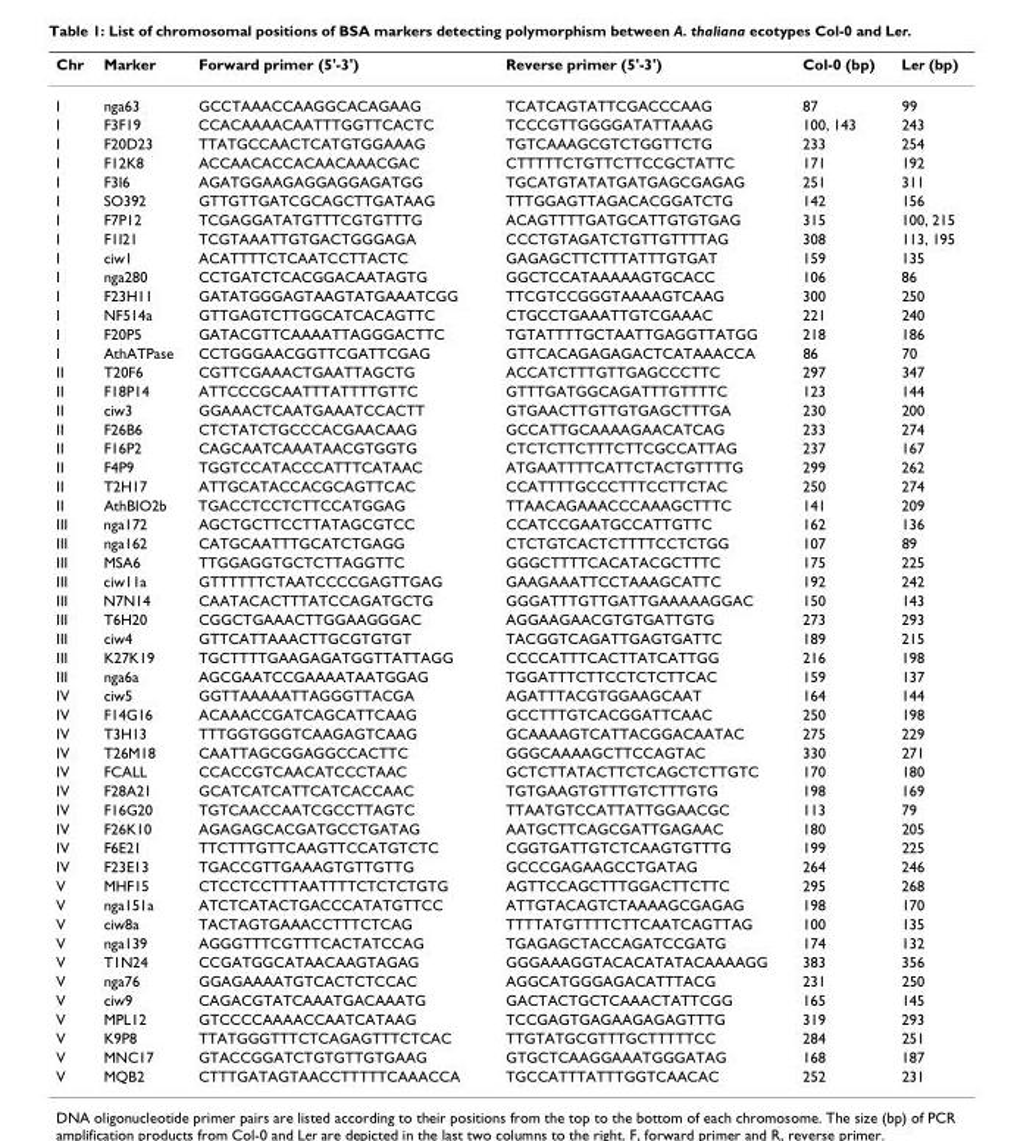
<table><thead><tr><td>Chr</td><td>Marker</td><td>Forward primer (5&#x27;-3&#x27;)</td><td>Reverse primer (5&#x27;-3&#x27;)</td><td>Col-0 (bp)</td><td>Ler (bp)</td></tr></thead><tbody><tr><td>I</td><td>nga63</td><td>GCCTAAACCAAGGCACAGAAG</td><td>TCATCAGTATTCGACCCAAG</td><td>87</td><td>99</td></tr><tr><td>I</td><td>F3F19</td><td>CCACAAAACAATTTGGTTCACTC</td><td>TCCCGTTGGGGATATTAAAG</td><td>100, 143</td><td>243</td></tr><tr><td>I</td><td>F20D23</td><td>TTATGCCAACTCATGTGGAAAG</td><td>TGTCAAAGCGTCTGGTTCTG</td><td>233</td><td>254</td></tr><tr><td>I</td><td>F12K8</td><td>ACCAACACCACAACAAACGAC</td><td>CTTTTTCTGTTCTTCCGCTATTC</td><td>171</td><td>192</td></tr><tr><td>I</td><td>F3I6</td><td>AGATGGAAGAGGAGGAGATGG</td><td>TGCATGTATATGATGAGCGAGAG</td><td>251</td><td>311</td></tr><tr><td>I</td><td>SO392</td><td>GTTGTTGATCGCAGCTTGATAAG</td><td>TTTGGAGTTAGACACGGATCTG</td><td>142</td><td>156</td></tr><tr><td>I</td><td>F7P12</td><td>TCGAGGATATGTTTCGTGTTTG</td><td>ACAGTTTTGATGCATTGTGTGAG</td><td>315</td><td>100, 215</td></tr><tr><td>I</td><td>F1I21</td><td>TCGTAAATTGTGACTGGGAGA</td><td>CCCTGTAGATCTGTTGTTTTAG</td><td>308</td><td>113, 195</td></tr><tr><td>I</td><td>ciw1</td><td>ACATTTTCTCAATCCTTACTC</td><td>GAGAGCTTCTTTATTTGTGAT</td><td>159</td><td>135</td></tr><tr><td>I</td><td>nga280</td><td>CCTGATCTCACGGACAATAGTG</td><td>GGCTCCATAAAAAGTGCACC</td><td>106</td><td>86</td></tr><tr><td>I</td><td>F23H11</td><td>GATATGGGAGTAAGTATGAAATCGG</td><td>TTCGTCCGGGTAAAAGTCAAG</td><td>300</td><td>250</td></tr><tr><td>I</td><td>NF514a</td><td>GTTGAGTCTTGGCATCACAGTTC</td><td>CTGCCTGAAATTGTCGAAAC</td><td>221</td><td>240</td></tr><tr><td>I</td><td>F20P5</td><td>GATACGTTCAAAATTAGGGACTTC</td><td>TGTATTTTGCTAATTGAGGTTATGG</td><td>218</td><td>186</td></tr><tr><td>I</td><td>AthATPase</td><td>CCTGGGAACGGTTCGATTCGAG</td><td>GTTCACAGAGAGACTCATAAACCA</td><td>86</td><td>70</td></tr><tr><td>II</td><td>T20F6</td><td>CGTTCGAAACTGAATTAGCTG</td><td>ACCATCTTTGTTGAGCCCTTC</td><td>297</td><td>347</td></tr><tr><td>II</td><td>F18P14</td><td>ATTCCCGCAATTTATTTTGTTC</td><td>GTTTGATGGCAGATTTGTTTTC</td><td>123</td><td>144</td></tr><tr><td>II</td><td>ciw3</td><td>GGAAACTCAATGAAATCCACTT</td><td>GTGAACTTGTTGTGAGCTTTGA</td><td>230</td><td>200</td></tr><tr><td>II</td><td>F26B6</td><td>CTCTATCTGCCCACGAACAAG</td><td>GCCATTGCAAAAGAACATCAG</td><td>233</td><td>274</td></tr><tr><td>II</td><td>F16P2</td><td>CAGCAATCAAATAACGTGGTG</td><td>CTCTCTTCTTTCTTCGCCATTAG</td><td>237</td><td>167</td></tr><tr><td>II</td><td>F4P9</td><td>TGGTCCATACCCATTTCATAAC</td><td>ATGAATTTTCATTCTACTGTTTTG</td><td>299</td><td>262</td></tr><tr><td>II</td><td>T2H17</td><td>ATTGCATACCACGCAGTTCAC</td><td>CCATTTTGCCCTTTCCTTCTAC</td><td>250</td><td>274</td></tr><tr><td>II</td><td>AthBIO2b</td><td>TGACCTCCTCTTCCATGGAG</td><td>TTAACAGAAACCCAAAGCTTTC</td><td>141</td><td>209</td></tr><tr><td>III</td><td>nga172</td><td>AGCTGCTTCCTTATAGCGTCC</td><td>CCATCCGAATGCCATTGTTC</td><td>162</td><td>136</td></tr><tr><td>III</td><td>nga162</td><td>CATGCAATTTGCATCTGAGG</td><td>CTCTGTCACTCTTTTCCTCTGG</td><td>107</td><td>89</td></tr><tr><td>III</td><td>MSA6</td><td>TTGGAGGTGCTCTTAGGTTC</td><td>GGGCTTTTCACATACGCTTTC</td><td>175</td><td>225</td></tr><tr><td>III</td><td>ciw11a</td><td>GTTTTTTCTAATCCCCGAGTTGAG</td><td>GAAGAAATTCCTAAAGCATTC</td><td>192</td><td>242</td></tr><tr><td>III</td><td>N7N14</td><td>CAATACACTTTATCCAGATGCTG</td><td>GGGATTTGTTGATTGAAAAAGGAC</td><td>150</td><td>143</td></tr><tr><td>III</td><td>T6H20</td><td>CGGCTGAAACTTGGAAGGGAC</td><td>AGGAAGAACGTGTGATTGTG</td><td>273</td><td>293</td></tr><tr><td>III</td><td>ciw4</td><td>GTTCATTAAACTTGCGTGTGT</td><td>TACGGTCAGATTGAGTGATTC</td><td>189</td><td>215</td></tr><tr><td>III</td><td>K27K19</td><td>TGCTTTTGAAGAGATGGTTATTAGG</td><td>CCCCATTTCACTTATCATTGG</td><td>216</td><td>198</td></tr><tr><td>III</td><td>nga6a</td><td>AGCGAATCCGAAAATAATGGAG</td><td>TGGATTTCTTCCTCTCTTCAC</td><td>159</td><td>137</td></tr><tr><td>IV</td><td>ciw5</td><td>GGTTAAAAATTAGGGTTACGA</td><td>AGATTTACGTGGAAGCAAT</td><td>164</td><td>144</td></tr><tr><td>IV</td><td>F14G16</td><td>ACAAACCGATCAGCATTCAAG</td><td>GCCTTTGTCACGGATTCAAC</td><td>250</td><td>198</td></tr><tr><td>IV</td><td>T3H13</td><td>TTTGGTGGGTCAAGAGTCAAG</td><td>GCAAAAGTCATTACGGACAATAC</td><td>275</td><td>229</td></tr><tr><td>IV</td><td>T26M18</td><td>CAATTAGCGGAGGCCACTTC</td><td>GGGCAAAAGCTTCCAGTAC</td><td>330</td><td>271</td></tr><tr><td>IV</td><td>FCALL</td><td>CCACCGTCAACATCCCTAAC</td><td>GCTCTTATACTTCTCAGCTCTTGTC</td><td>170</td><td>180</td></tr><tr><td>IV</td><td>F28A21</td><td>GCATCATCATTCATCACCAAC</td><td>TGTGAAGTGTTTGTCTTTGTG</td><td>198</td><td>169</td></tr><tr><td>IV</td><td>F16G20</td><td>TGTCAACCAATCGCCTTAGTC</td><td>TTAATGTCCATTATTGGAACGC</td><td>113</td><td>79</td></tr><tr><td>IV</td><td>F26K10</td><td>AGAGAGCACGATGCCTGATAG</td><td>AATGCTTCAGCGATTGAGAAC</td><td>180</td><td>205</td></tr><tr><td>IV</td><td>F6E21</td><td>TTCTTTGTTCAAGTTCCATGTCTC</td><td>CGGTGATTGTCTCAAGTGTTTG</td><td>199</td><td>225</td></tr><tr><td>IV</td><td>F23E13</td><td>TGACCGTTGAAAGTGTTGTTG</td><td>GCCCGAGAAGCCTGATAG</td><td>264</td><td>246</td></tr><tr><td>V</td><td>MHF15</td><td>CTCCTCCTTTAATTTTCTCTCTGTG</td><td>AGTTCCAGCTTTGGACTTCTTC</td><td>295</td><td>268</td></tr><tr><td>V</td><td>nga151a</td><td>ATCTCATACTGACCCATATGTTCC</td><td>ATTGTACAGTCTAAAAGCGAGAG</td><td>198</td><td>170</td></tr><tr><td>V</td><td>ciw8a</td><td>TACTAGTGAAACCTTTCTCAG</td><td>TTTTATGTTTTCTTCAATCAGTTAG</td><td>100</td><td>135</td></tr><tr><td>V</td><td>nga139</td><td>AGGGTTTCGTTTCACTATCCAG</td><td>TGAGAGCTACCAGATCCGATG</td><td>174</td><td>132</td></tr><tr><td>V</td><td>T1N24</td><td>CCGATGGCATAACAAGTAGAG</td><td>GGGAAAGGTACACATATACAAAAGG</td><td>383</td><td>356</td></tr><tr><td>V</td><td>nga76</td><td>GGAGAAAATGTCACTCTCCAC</td><td>AGGCATGGGAGACATTTACG</td><td>231</td><td>250</td></tr><tr><td>V</td><td>ciw9</td><td>CAGACGTATCAAATGACAAATG</td><td>GACTACTGCTCAAACTATTCGG</td><td>165</td><td>145</td></tr><tr><td>V</td><td>MPL12</td><td>GTCCCCAAAACCAATCATAAG</td><td>TCCGAGTGAGAAGAGAGTTTG</td><td>319</td><td>293</td></tr><tr><td>V</td><td>K9P8</td><td>TTATGGGTTTCTCAGAGTTTCTCAC</td><td>TTGTATGCGTTTGCTTTTTCC</td><td>284</td><td>251</td></tr><tr><td>V</td><td>MNC17</td><td>GTACCGGATCTGTGTTGTGAAG</td><td>GTGCTCAAGGAAATGGGATAG</td><td>168</td><td>187</td></tr><tr><td>V</td><td>MQB2</td><td>CTTTGATAGTAACCTTTTTCAAACCA</td><td>TGCCATTTATTTGGTCAACAC</td><td>252</td><td>231</td></tr></tbody></table>